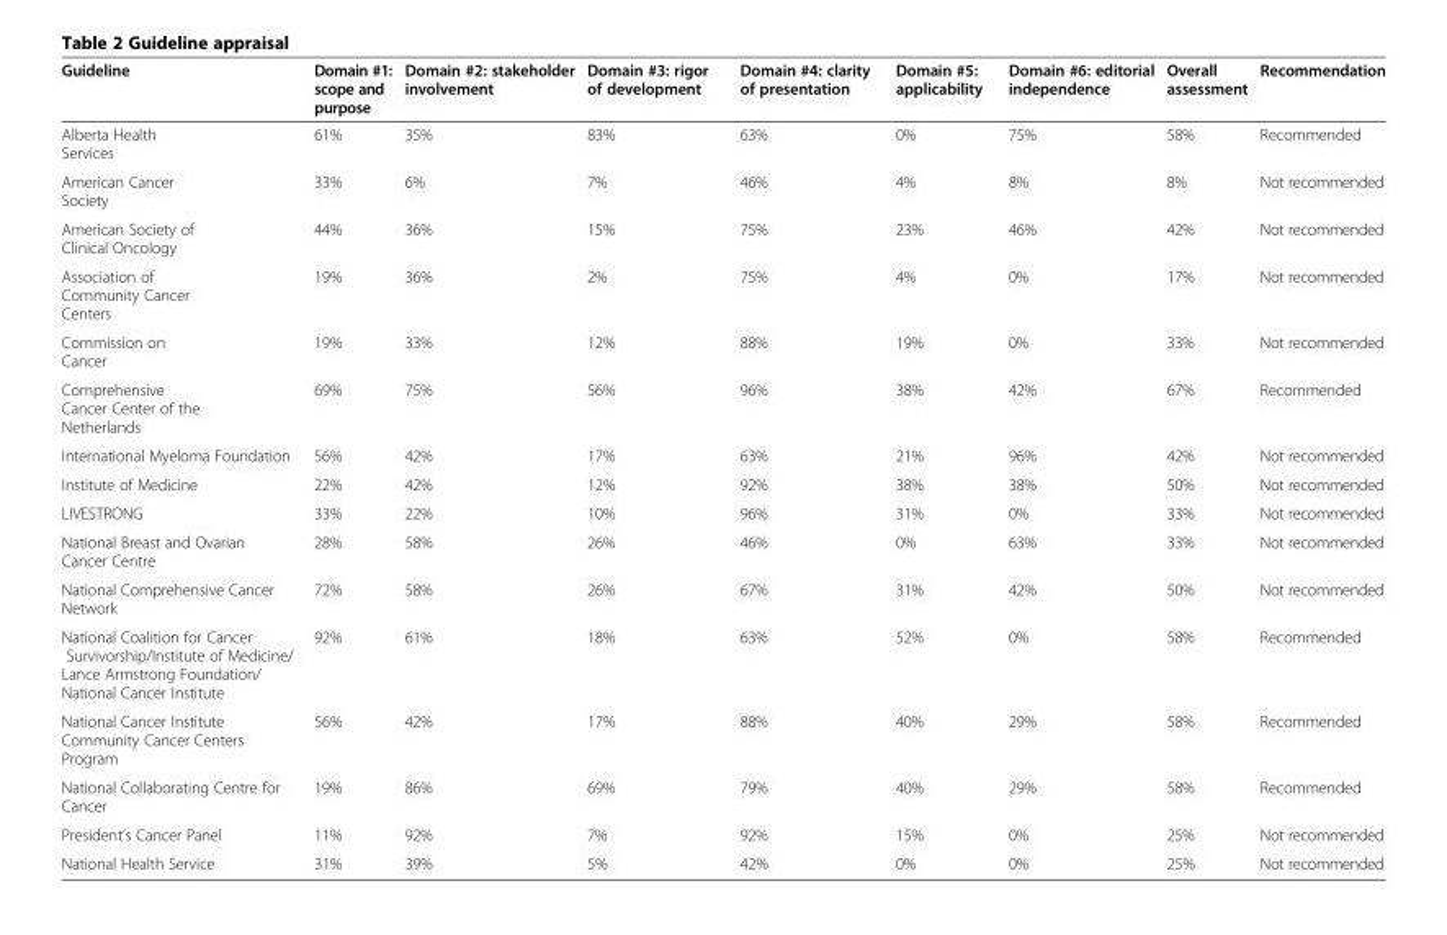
<table><thead><tr><td>Guideline</td><td>Domain #1: scope and purpose</td><td>Domain #2: stakeholder involvement</td><td>Domain #3: rigor of development</td><td>Domain #4: clarity of presentation</td><td>Domain #5: applicability</td><td>Domain #6: editorial independence</td><td>Overall assessment</td><td>Recommendation</td></tr></thead><tbody><tr><td>Alberta Health Services</td><td>61%</td><td>35%</td><td>83%</td><td>63%</td><td>0%</td><td>75%</td><td>58%</td><td>Recommended</td></tr><tr><td>American Cancer Society</td><td>33%</td><td>6%</td><td>7%</td><td>46%</td><td>4%</td><td>8%</td><td>8%</td><td>Not recommended</td></tr><tr><td>American Society of Clinical Oncology</td><td>44%</td><td>36%</td><td>15%</td><td>75%</td><td>23%</td><td>46%</td><td>42%</td><td>Not recommended</td></tr><tr><td>Association of Community Cancer Centers</td><td>19%</td><td>36%</td><td>2%</td><td>75%</td><td>4%</td><td>0%</td><td>17%</td><td>Not recommended</td></tr><tr><td>Commission on Cancer</td><td>19%</td><td>33%</td><td>12%</td><td>88%</td><td>19%</td><td>0%</td><td>33%</td><td>Not recommended</td></tr><tr><td>Comprehensive Cancer Center of the Netherlands</td><td>69%</td><td>75%</td><td>56%</td><td>96%</td><td>38%</td><td>42%</td><td>67%</td><td>Recommended</td></tr><tr><td>International Myeloma Foundation</td><td>56%</td><td>42%</td><td>17%</td><td>63%</td><td>21%</td><td>96%</td><td>42%</td><td>Not recommended</td></tr><tr><td>Institute of Medicine</td><td>22%</td><td>42%</td><td>12%</td><td>92%</td><td>38%</td><td>38%</td><td>50%</td><td>Not recommended</td></tr><tr><td>LIVESTRONG</td><td>33%</td><td>22%</td><td>10%</td><td>96%</td><td>31%</td><td>0%</td><td>33%</td><td>Not recommended</td></tr><tr><td>National Breast and Ovarian Cancer Centre</td><td>28%</td><td>58%</td><td>26%</td><td>46%</td><td>0%</td><td>63%</td><td>33%</td><td>Not recommended</td></tr><tr><td>National Comprehensive Cancer Network</td><td>72%</td><td>58%</td><td>26%</td><td>67%</td><td>31%</td><td>42%</td><td>50%</td><td>Not recommended</td></tr><tr><td>National Coalition for Cancer Survivorship/Institute of Medicine/ Lance Armstrong Foundation/ National Cancer Institute</td><td>92%</td><td>61%</td><td>18%</td><td>63%</td><td>52%</td><td>0%</td><td>58%</td><td>Recommended</td></tr><tr><td>National Cancer Institute Community Cancer Centers Program</td><td>56%</td><td>42%</td><td>17%</td><td>88%</td><td>40%</td><td>29%</td><td>58%</td><td>Recommended</td></tr><tr><td>National Collaborating Centre for Cancer</td><td>19%</td><td>86%</td><td>69%</td><td>79%</td><td>40%</td><td>29%</td><td>58%</td><td>Recommended</td></tr><tr><td>President’s Cancer Panel</td><td>11%</td><td>92%</td><td>7%</td><td>92%</td><td>15%</td><td>0%</td><td>25%</td><td>Not recommended</td></tr><tr><td>National Health Service</td><td>31%</td><td>39%</td><td>5%</td><td>42%</td><td>0%</td><td>0%</td><td>25%</td><td>Not recommended</td></tr></tbody></table>